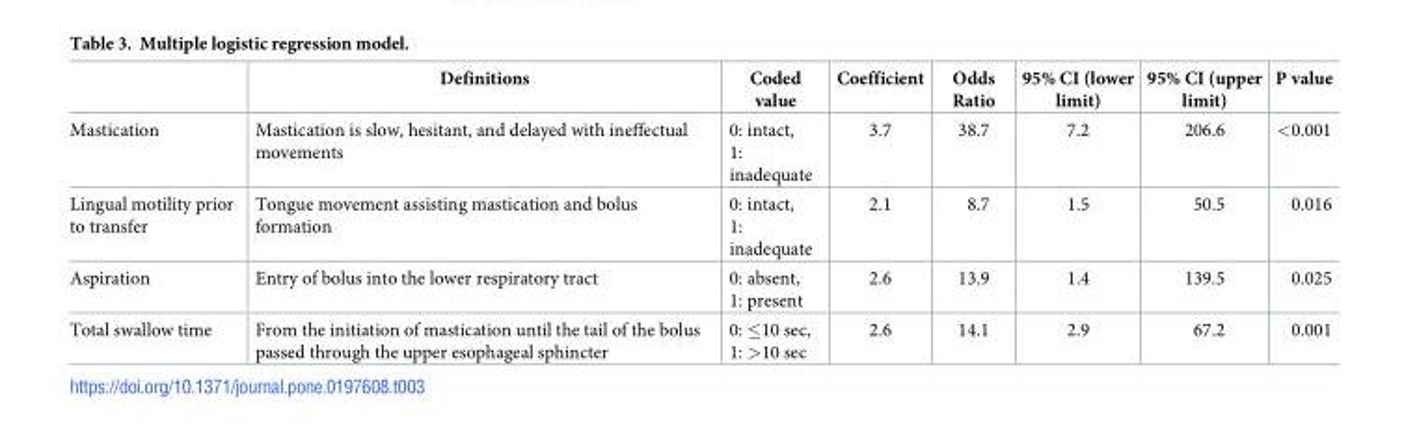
<table><thead><tr><td></td><td>Definitions</td><td>Coded value</td><td>Coefficient</td><td>Odds Ratio</td><td>95% CI (lower limit)</td><td>95% CI (upper limit)</td><td>P value</td></tr></thead><tbody><tr><td>Mastication</td><td>Mastication is slow, hesitant, and delayed with ineffectual movements</td><td>0: intact, 1: inadequate</td><td>3.7</td><td>38.7</td><td>7.2</td><td>206.6</td><td>&lt;0.001</td></tr><tr><td>Lingual motility prior to transfer</td><td>Tongue movement assisting mastication and bolus formation</td><td>0: intact, 1: inadequate</td><td>2.1</td><td>8.7</td><td>1.5</td><td>50.5</td><td>0.016</td></tr><tr><td>Aspiration</td><td>Entry of bolus into the lower respiratory tract</td><td>0: absent, 1: present</td><td>2.6</td><td>13.9</td><td>1.4</td><td>139.5</td><td>0.025</td></tr><tr><td>Total swallow time</td><td>From the initiation of mastication until the tail of the bolus passed through the upper esophageal sphincter</td><td>0: ≤10 sec, 1: &gt;10 sec</td><td>2.6</td><td>14.1</td><td>2.9</td><td>67.2</td><td>0.001</td></tr></tbody></table>